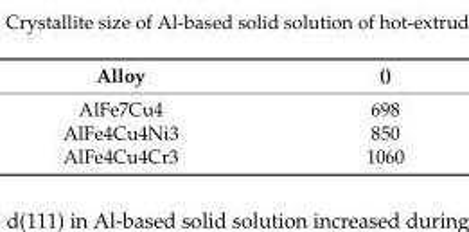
<table><thead><tr><td>Alloy</td><td>()</td></tr></thead><tbody><tr><td>AlFe7Cu4</td><td>698</td></tr><tr><td>AlFe4Cu4Ni3</td><td>850</td></tr><tr><td>AlFe4Cu4Cr3</td><td>1060</td></tr></tbody></table>